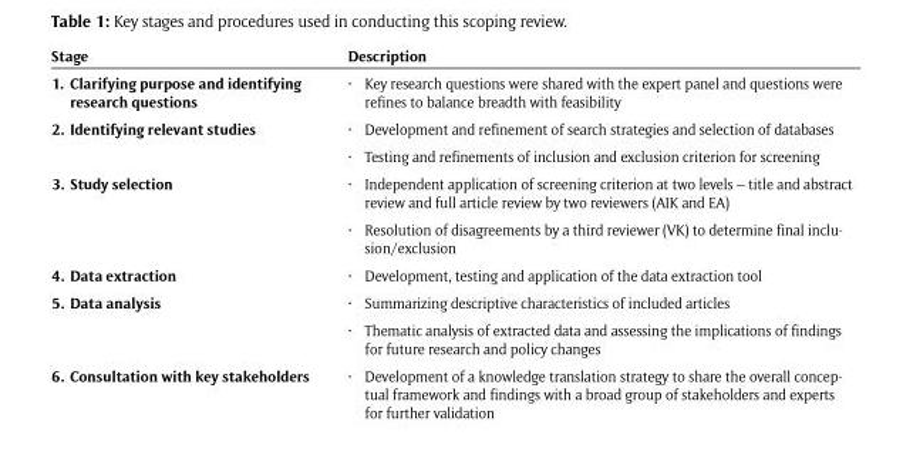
<table><thead><tr><td>Stage</td><td>Description</td></tr></thead><tbody><tr><td>1. Clarifying purpose and identifying research questions</td><td>• Key research questions were shared with the expert panel and questions were refines to balance breadth with feasibility</td></tr><tr><td rowspan="2">2. Identifying relevant studies</td><td>• Development and refinement of search strategies and selection of databases</td></tr><tr><td>• Testing and refinements of inclusion and exclusion criterion for screening</td></tr><tr><td rowspan="2">3. Study selection</td><td>• Independent application of screening criterion at two levels – title and abstract review and full article review by two reviewers (AIK and EA)</td></tr><tr><td>• Resolution of disagreements by a third reviewer (VK) to determine final inclu- sion/exclusion</td></tr><tr><td>4. Data extraction</td><td>• Development, testing and application of the data extraction tool</td></tr><tr><td rowspan="2">5. Data analysis</td><td>• Summarizing descriptive characteristics of included articles</td></tr><tr><td>• Thematic analysis of extracted data and assessing the implications of findings for future research and policy changes</td></tr><tr><td>6. Consultation with key stakeholders</td><td>• Development of a knowledge translation strategy to share the overall concep- tual framework and findings with a broad group of stakeholders and experts for further validation</td></tr></tbody></table>